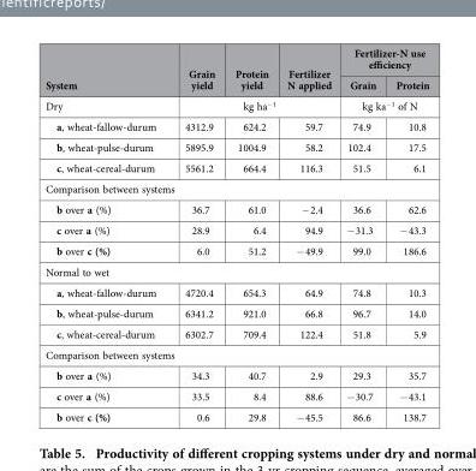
<table><thead><tr><td rowspan="2">System</td><td rowspan="2">Grain yield</td><td rowspan="2">Protein yield</td><td rowspan="2">Fertilizer N applied</td><td colspan="2">Fertilizer-N use efficiency</td></tr><tr><td>Grain</td><td>Protein</td></tr></thead><tbody><tr><td>Dry</td><td colspan="3">kg ha<sup>−1</sup></td><td colspan="2">kg ka<sup>−1</sup> of N</td></tr><tr><td>a, wheat-fallow-durum</td><td>4312.9</td><td>624.2</td><td>59.7</td><td>74.9</td><td>10.8</td></tr><tr><td>b, wheat-pulse-durum</td><td>5895.9</td><td>1004.9</td><td>58.2</td><td>102.4</td><td>17.5</td></tr><tr><td>c, wheat-cereal-durum</td><td>5561.2</td><td>664.4</td><td>116.3</td><td>51.5</td><td>6.1</td></tr><tr><td colspan="6">Comparison between systems</td></tr><tr><td>b over a (%)</td><td>36.7</td><td>61.0</td><td>− 2.4</td><td>36.6</td><td>62.6</td></tr><tr><td>c over a (%)</td><td>28.9</td><td>6.4</td><td>94.9</td><td>− 31.3</td><td>− 43.3</td></tr><tr><td>b over c (%)</td><td>6.0</td><td>51.2</td><td>− 49.9</td><td>99.0</td><td>186.6</td></tr><tr><td colspan="6">Normal to wet</td></tr><tr><td>a, wheat-fallow-durum</td><td>4720.4</td><td>654.3</td><td>64.9</td><td>74.8</td><td>10.3</td></tr><tr><td>b, wheat-pulse-durum</td><td>6341.2</td><td>921.0</td><td>66.8</td><td>96.7</td><td>14.0</td></tr><tr><td>c, wheat-cereal-durum</td><td>6302.7</td><td>709.4</td><td>122.4</td><td>51.8</td><td>5.9</td></tr><tr><td colspan="6">Comparison between systems</td></tr><tr><td>b over a (%)</td><td>34.3</td><td>40.7</td><td>2.9</td><td>29.3</td><td>35.7</td></tr><tr><td>c over a (%)</td><td>33.5</td><td>8.4</td><td>88.6</td><td>− 30.7</td><td>− 43.1</td></tr><tr><td>b over c (%)</td><td>0.6</td><td>29.8</td><td>− 45.5</td><td>86.6</td><td>138.7</td></tr></tbody></table>